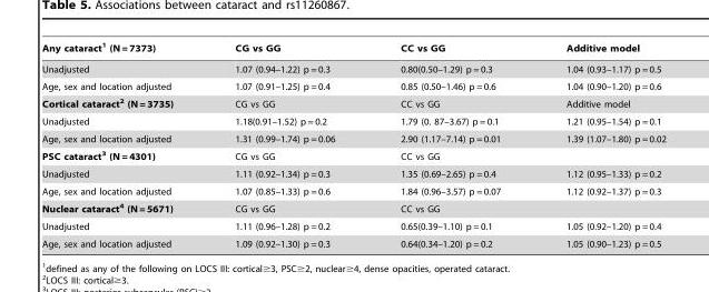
<table><thead><tr><td>Any cataract<sup>1</sup> (N = 7373)</td><td>CG vs GG</td><td>CC vs GG</td><td>Additive model</td></tr></thead><tbody><tr><td>Unadjusted</td><td>1.07 (0.94–1.22) p = 0.3</td><td>0.80(0.50–1.29) p = 0.3</td><td>1.04 (0.93–1.17) p = 0.5</td></tr><tr><td>Age, sex and location adjusted</td><td>1.07 (0.91–1.25) p = 0.4</td><td>0.85 (0.50–1.46) p = 0.6</td><td>1.04 (0.90–1.20) p = 0.6</td></tr><tr><td>Cortical cataract2 (N = 3735)</td><td>CG vs GG</td><td>CC vs GG</td><td>Additive model</td></tr><tr><td>Unadjusted</td><td>1.18(0.91–1.52) p = 0.2</td><td>1.79 (0. 87–3.67) p = 0.1</td><td>1.21 (0.95–1.54) p = 0.1</td></tr><tr><td>Age, sex and location adjusted</td><td>1.31 (0.99–1.74) p = 0.06</td><td>2.90 (1.17–7.14) p = 0.01</td><td>1.39 (1.07–1.80) p = 0.02</td></tr><tr><td>PSC cataract3 (N = 4301)</td><td>CG vs GG</td><td>CC vs GG</td><td></td></tr><tr><td>Unadjusted</td><td>1.11 (0.92–1.34) p = 0.3</td><td>1.35 (0.69–2.65) p = 0.4</td><td>1.12 (0.95–1.33) p = 0.2</td></tr><tr><td>Age, sex and location adjusted</td><td>1.07 (0.85–1.33) p = 0.6</td><td>1.84 (0.96–3.57) p = 0.07</td><td>1.12 (0.92–1.37) p = 0.3</td></tr><tr><td>Nuclear cataract4 (N = 5671)</td><td>CG vs GG</td><td>CC vs GG</td><td></td></tr><tr><td>Unadjusted</td><td>1.11 (0.96–1.28) p = 0.2</td><td>0.65(0.39–1.10) p = 0.1</td><td>1.05 (0.92–1.20) p = 0.4</td></tr><tr><td>Age, sex and location adjusted</td><td>1.09 (0.92–1.30) p = 0.3</td><td>0.64(0.34–1.20) p = 0.2</td><td>1.05 (0.90–1.23) p = 0.5</td></tr></tbody></table>